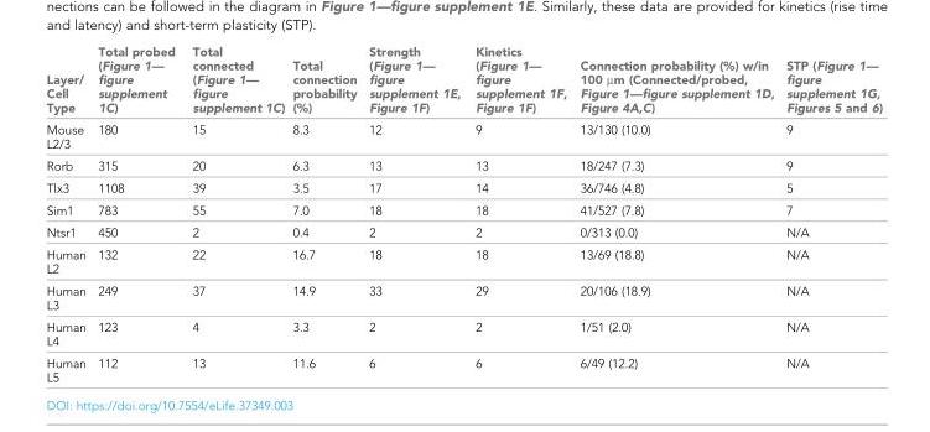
<table><thead><tr><td>Layer/ Cell Type</td><td>Total probed (Figure 1— figure supplement 1C)</td><td>Total connected (Figure 1— figure supplement 1C)</td><td>Total connection probability (%)</td><td>Strength (Figure 1— figure supplement 1E, Figure 1F)</td><td>Kinetics (Figure 1— figure supplement 1F, Figure 1F)</td><td>Connection probability (%) w/in 100 µm (Connected/probed, Figure 1—figure supplement 1D, Figure 4A,C)</td><td>STP (Figure 1— figure supplement 1G, Figures 5 and 6)</td></tr></thead><tbody><tr><td>Mouse L2/3</td><td>180</td><td>15</td><td>8.3</td><td>12</td><td>9</td><td>13/130 (10.0)</td><td>9</td></tr><tr><td>Rorb</td><td>315</td><td>20</td><td>6.3</td><td>13</td><td>13</td><td>18/247 (7.3)</td><td>9</td></tr><tr><td>Tlx3</td><td>1108</td><td>39</td><td>3.5</td><td>17</td><td>14</td><td>36/746 (4.8)</td><td>5</td></tr><tr><td>Sim1</td><td>783</td><td>55</td><td>7.0</td><td>18</td><td>18</td><td>41/527 (7.8)</td><td>7</td></tr><tr><td>Ntsr1</td><td>450</td><td>2</td><td>0.4</td><td>2</td><td>2</td><td>0/313 (0.0)</td><td>N/A</td></tr><tr><td>Human L2</td><td>132</td><td>22</td><td>16.7</td><td>18</td><td>18</td><td>13/69 (18.8)</td><td>N/A</td></tr><tr><td>Human L3</td><td>249</td><td>37</td><td>14.9</td><td>33</td><td>29</td><td>20/106 (18.9)</td><td>N/A</td></tr><tr><td>Human L4</td><td>123</td><td>4</td><td>3.3</td><td>2</td><td>2</td><td>1/51 (2.0)</td><td>N/A</td></tr><tr><td>Human L5</td><td>112</td><td>13</td><td>11.6</td><td>6</td><td>6</td><td>6/49 (12.2)</td><td>N/A</td></tr></tbody></table>